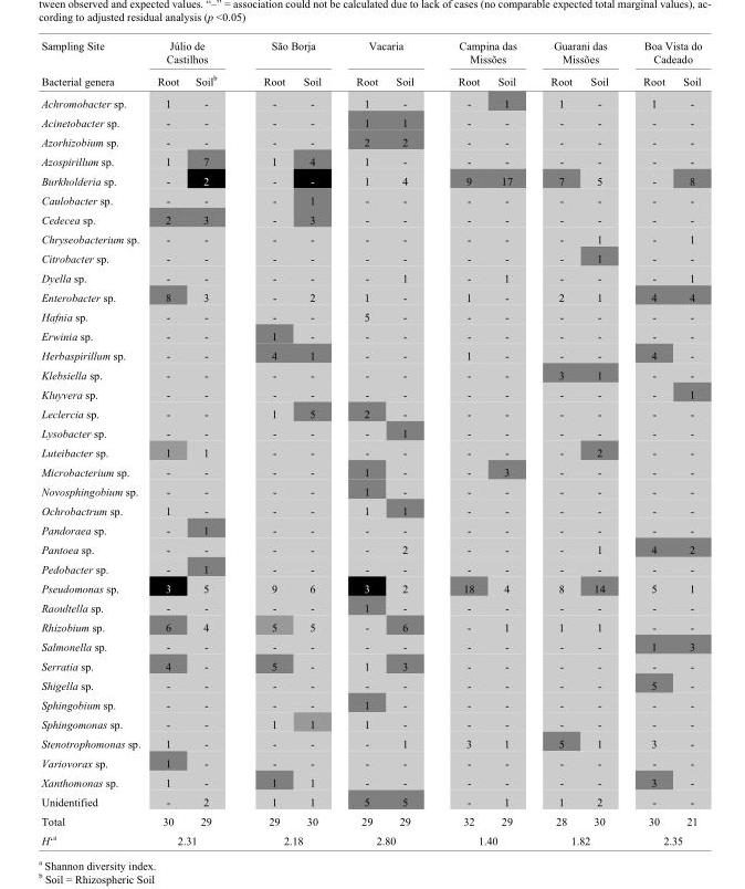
<table><thead><tr><td rowspan="2">Sampling Site Bacterial genera</td><td colspan="2">Júlio de Castilhos</td><td colspan="2">São Borja</td><td colspan="2">Vacaria</td><td colspan="2">Campina das Missões</td><td colspan="2">Guarani das Missões</td><td colspan="2">Boa Vista do Cadeado</td></tr><tr><td>Root</td><td>Soil<sup>b</sup></td><td>Root</td><td>Soil</td><td>Root</td><td>Soil</td><td>Root</td><td>Soil</td><td>Root</td><td>Soil</td><td>Root</td><td>Soil</td></tr></thead><tbody><tr><td>Achromobacter sp.</td><td>1</td><td>-</td><td>-</td><td>-</td><td>1</td><td>-</td><td>-</td><td>1</td><td>1</td><td>-</td><td>1</td><td>-</td></tr><tr><td>Acinetobacter sp.</td><td>-</td><td>-</td><td>-</td><td>-</td><td>1</td><td>1</td><td>-</td><td>-</td><td>-</td><td>-</td><td>-</td><td>-</td></tr><tr><td>Azorhizobium sp.</td><td>-</td><td>-</td><td>-</td><td>-</td><td>2</td><td>2</td><td>-</td><td>-</td><td>-</td><td>-</td><td>-</td><td>-</td></tr><tr><td>Azospirillum sp.</td><td>1</td><td>7</td><td>1</td><td>4</td><td>1</td><td>-</td><td>-</td><td>-</td><td>-</td><td>-</td><td>-</td><td>-</td></tr><tr><td>Burkholderia sp.</td><td>-</td><td>2</td><td>-</td><td>-</td><td>1</td><td>4</td><td>9</td><td>17</td><td>7</td><td>5</td><td>-</td><td>8</td></tr><tr><td>Caulobacter sp.</td><td>-</td><td>-</td><td>-</td><td>1</td><td>-</td><td>-</td><td>-</td><td>-</td><td>-</td><td>-</td><td>-</td><td>-</td></tr><tr><td>Cedecea sp.</td><td>2</td><td>3</td><td>-</td><td>3</td><td>-</td><td>-</td><td>-</td><td>-</td><td>-</td><td>-</td><td>-</td><td>-</td></tr><tr><td>Chryseobacterium sp.</td><td>-</td><td>-</td><td>-</td><td>-</td><td>-</td><td>-</td><td>-</td><td>-</td><td>-</td><td>1</td><td>-</td><td>1</td></tr><tr><td>Citrobacter sp.</td><td>-</td><td>-</td><td>-</td><td>-</td><td>-</td><td>-</td><td>-</td><td>-</td><td>-</td><td>1</td><td>-</td><td>-</td></tr><tr><td>Dyella sp.</td><td>-</td><td>-</td><td>-</td><td>-</td><td>-</td><td>1</td><td>-</td><td>1</td><td>-</td><td>-</td><td>-</td><td>1</td></tr><tr><td>Enterobacter sp.</td><td>8</td><td>3</td><td>-</td><td>2</td><td>1</td><td>-</td><td>1</td><td>-</td><td>2</td><td>1</td><td>4</td><td>4</td></tr><tr><td>Hafnia sp.</td><td>-</td><td>-</td><td>-</td><td>-</td><td>5</td><td>-</td><td>-</td><td>-</td><td>-</td><td>-</td><td>-</td><td>-</td></tr><tr><td>Erwinia sp.</td><td>-</td><td>-</td><td>1</td><td>-</td><td>-</td><td>-</td><td>-</td><td>-</td><td>-</td><td>-</td><td>-</td><td>-</td></tr><tr><td>Herbaspirillum sp.</td><td>-</td><td>-</td><td>4</td><td>1</td><td>-</td><td>-</td><td>1</td><td>-</td><td>-</td><td>-</td><td>4</td><td>-</td></tr><tr><td>Klebsiella sp.</td><td>-</td><td>-</td><td>-</td><td>-</td><td>-</td><td>-</td><td>-</td><td>-</td><td>3</td><td>1</td><td>-</td><td>-</td></tr><tr><td>Kluyvera sp.</td><td>-</td><td>-</td><td>-</td><td>-</td><td>-</td><td>-</td><td>-</td><td>-</td><td>-</td><td>-</td><td>-</td><td>1</td></tr><tr><td>Leclercia sp.</td><td>-</td><td>-</td><td>1</td><td>5</td><td>2</td><td>-</td><td>-</td><td>-</td><td>-</td><td>-</td><td>-</td><td>-</td></tr><tr><td>Lysobacter sp.</td><td>-</td><td>-</td><td>-</td><td>-</td><td>-</td><td>1</td><td>-</td><td>-</td><td>-</td><td>-</td><td>-</td><td>-</td></tr><tr><td>Luteibacter sp.</td><td>1</td><td>1</td><td>-</td><td>-</td><td>-</td><td>-</td><td>-</td><td>-</td><td>-</td><td>2</td><td>-</td><td>-</td></tr><tr><td>Microbacterium sp.</td><td>-</td><td>-</td><td>-</td><td>-</td><td>1</td><td>-</td><td>-</td><td>3</td><td>-</td><td>-</td><td>-</td><td>-</td></tr><tr><td>Novosphingobium sp.</td><td>-</td><td>-</td><td>-</td><td>-</td><td>1</td><td>-</td><td>-</td><td>-</td><td>-</td><td>-</td><td>-</td><td>-</td></tr><tr><td>Ochrobactrum sp.</td><td>1</td><td>-</td><td>-</td><td>-</td><td>1</td><td>1</td><td>-</td><td>-</td><td>-</td><td>-</td><td>-</td><td>-</td></tr><tr><td>Pandoraea sp.</td><td>-</td><td>1</td><td>-</td><td>-</td><td>-</td><td>-</td><td>-</td><td>-</td><td>-</td><td>-</td><td>-</td><td>-</td></tr><tr><td>Pantoea sp.</td><td>-</td><td>-</td><td>-</td><td>-</td><td>-</td><td>2</td><td>-</td><td>-</td><td>-</td><td>1</td><td>4</td><td>2</td></tr><tr><td>Pedobacter sp.</td><td>-</td><td>1</td><td>-</td><td>-</td><td>-</td><td>-</td><td>-</td><td>-</td><td>-</td><td>-</td><td>-</td><td>-</td></tr><tr><td>Pseudomonas sp.</td><td>3</td><td>5</td><td>9</td><td>6</td><td>3</td><td>2</td><td>18</td><td>4</td><td>8</td><td>14</td><td>5</td><td>1</td></tr><tr><td>Raoultella sp.</td><td>-</td><td>-</td><td>-</td><td>-</td><td>1</td><td>-</td><td>-</td><td>-</td><td>-</td><td>-</td><td>-</td><td>-</td></tr><tr><td>Rhizobium sp.</td><td>6</td><td>4</td><td>5</td><td>5</td><td>-</td><td>6</td><td>-</td><td>1</td><td>1</td><td>1</td><td>-</td><td>-</td></tr><tr><td>Salmonella sp.</td><td>-</td><td>-</td><td>-</td><td>-</td><td>-</td><td>-</td><td>-</td><td>-</td><td>-</td><td>-</td><td>1</td><td>3</td></tr><tr><td>Serratia sp.</td><td>4</td><td>-</td><td>5</td><td>-</td><td>1</td><td>3</td><td>-</td><td>-</td><td>-</td><td>-</td><td>-</td><td>-</td></tr><tr><td>Shigella sp.</td><td>-</td><td>-</td><td>-</td><td>-</td><td>-</td><td>-</td><td>-</td><td>-</td><td>-</td><td>-</td><td>5</td><td>-</td></tr><tr><td>Sphingobium sp.</td><td>-</td><td>-</td><td>-</td><td>-</td><td>1</td><td>-</td><td>-</td><td>-</td><td>-</td><td>-</td><td>-</td><td>-</td></tr><tr><td>Sphingomonas sp.</td><td>-</td><td>-</td><td>1</td><td>1</td><td>1</td><td>-</td><td>-</td><td>-</td><td>-</td><td>-</td><td>-</td><td>-</td></tr><tr><td>Stenotrophomonas sp.</td><td>1</td><td>-</td><td>-</td><td>-</td><td>-</td><td>1</td><td>3</td><td>1</td><td>5</td><td>1</td><td>3</td><td>-</td></tr><tr><td>Variovorax sp.</td><td>1</td><td>-</td><td>-</td><td>-</td><td>-</td><td>-</td><td>-</td><td>-</td><td>-</td><td>-</td><td>-</td><td>-</td></tr><tr><td>Xanthomonas sp.</td><td>1</td><td>-</td><td>1</td><td>1</td><td>-</td><td>-</td><td>-</td><td>-</td><td>-</td><td>-</td><td>3</td><td>-</td></tr><tr><td>Unidentified</td><td>-</td><td>2</td><td>1</td><td>1</td><td>5</td><td>5</td><td>-</td><td>1</td><td>1</td><td>2</td><td>-</td><td>-</td></tr><tr><td>Total</td><td>30</td><td>29</td><td>29</td><td>30</td><td>29</td><td>29</td><td>32</td><td>29</td><td>28</td><td>30</td><td>30</td><td>21</td></tr><tr><td>H‘<sup>a</sup></td><td colspan="2">2.31</td><td colspan="2">2.18</td><td colspan="2">2.80</td><td colspan="2">1.40</td><td colspan="2">1.82</td><td colspan="2">2.35</td></tr></tbody></table>